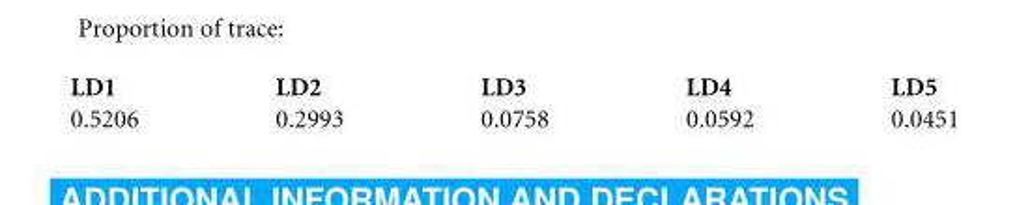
<table><tbody><tr><td>LD1</td><td>LD2</td><td>LD3</td><td>LD4</td><td>LD5</td></tr><tr><td>0.5206</td><td>0.2993</td><td>0.0758</td><td>0.0592</td><td>0.0451</td></tr></tbody></table>